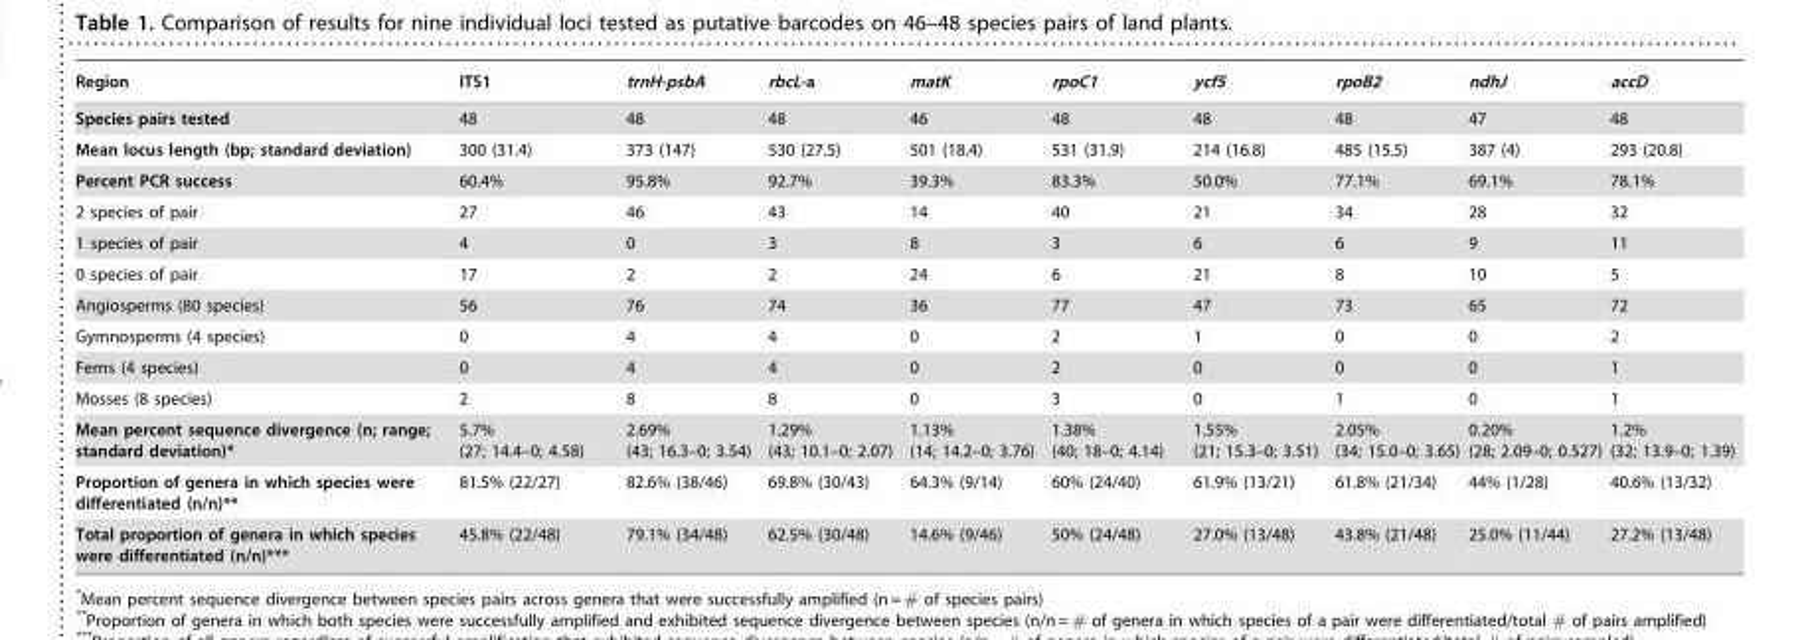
<table><thead><tr><td>Region</td><td>ITS1</td><td>trnH-psbA</td><td>rbcL-a</td><td>matK</td><td>rpoC1</td><td>ycf5</td><td>rpoB2</td><td>ndhJ</td><td>accD</td></tr></thead><tbody><tr><td>Species pairs tested</td><td>48</td><td>48</td><td>48</td><td>46</td><td>48</td><td>48</td><td>48</td><td>47</td><td>48</td></tr><tr><td>Mean locus length (bp; standard deviation)</td><td>300 (31.4)</td><td>373 (147)</td><td>530 (27.5)</td><td>501 (18.4)</td><td>531 (31.9)</td><td>214 (16.8)</td><td>485 (15.5)</td><td>387 (4)</td><td>293 (20.8)</td></tr><tr><td>Percent PCR success</td><td>60.4%</td><td>95.8%</td><td>92.7%</td><td>39.3%</td><td>83.3%</td><td>50.0%</td><td>77.1%</td><td>69.1%</td><td>78.1%</td></tr><tr><td>2 species of pair</td><td>27</td><td>46</td><td>43</td><td>14</td><td>40</td><td>21</td><td>34</td><td>28</td><td>32</td></tr><tr><td>1 species of pair</td><td>4</td><td>0</td><td>3</td><td>8</td><td>3</td><td>6</td><td>6</td><td>9</td><td>11</td></tr><tr><td>0 species of pair</td><td>17</td><td>2</td><td>2</td><td>24</td><td>6</td><td>21</td><td>8</td><td>10</td><td>5</td></tr><tr><td>Angiosperms (80 species)</td><td>56</td><td>76</td><td>74</td><td>36</td><td>77</td><td>47</td><td>73</td><td>65</td><td>72</td></tr><tr><td>Gymnosperms (4 species)</td><td>0</td><td>4</td><td>4</td><td>0</td><td>2</td><td>1</td><td>0</td><td>0</td><td>2</td></tr><tr><td>Ferns (4 species)</td><td>0</td><td>4</td><td>4</td><td>0</td><td>2</td><td>0</td><td>0</td><td>0</td><td>1</td></tr><tr><td>Mosses (8 species)</td><td>2</td><td>8</td><td>8</td><td>0</td><td>3</td><td>0</td><td>1</td><td>0</td><td>1</td></tr><tr><td>Mean percent sequence divergence (n; range; standard deviation)*</td><td>5.7% (27; 14.4–0; 4.58)</td><td>2.69% (43; 16.3–0; 3.54)</td><td>1.29% (43; 10.1–0; 2.07)</td><td>1.13% (14; 14.2–0; 3.76)</td><td>1.38% (40; 18–0; 4.14)</td><td>1.55% (21; 15.3–0; 3.51)</td><td>2.05% (34; 15.0–0; 3.65)</td><td>0.20% (28; 2.09–0; 0.527)</td><td>1.2% (32; 13.9–0; 1.39)</td></tr><tr><td>Proportion of genera in which species were differentiated (n/n)**</td><td>81.5% (22/27)</td><td>82.6% (38/46)</td><td>69.8% (30/43)</td><td>64.3% (9/14)</td><td>60% (24/40)</td><td>61.9% (13/21)</td><td>61.8% (21/34)</td><td>44% (1/28)</td><td>40.6% (13/32)</td></tr><tr><td>Total proportion of genera in which species were differentiated (n/n)***</td><td>45.8% (22/48)</td><td>79.1% (34/48)</td><td>62.5% (30/48)</td><td>14.6% (9/46)</td><td>50% (24/48)</td><td>27.0% (13/48)</td><td>43.8% (21/48)</td><td>25.0% (11/44)</td><td>27.2% (13/48)</td></tr></tbody></table>